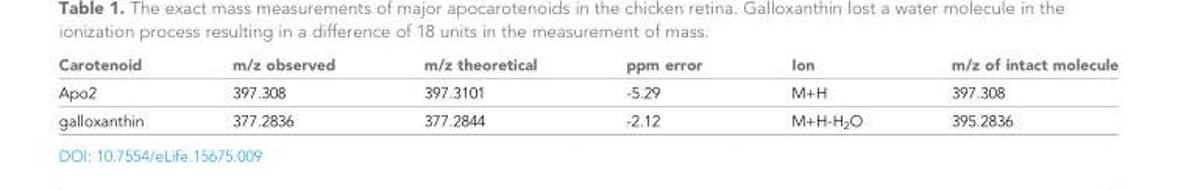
<table><thead><tr><td>Carotenoid</td><td>m/z observed</td><td>m/z theoretical</td><td>ppm error</td><td>Ion</td><td>m/z of intact molecule</td></tr></thead><tbody><tr><td>Apo2</td><td>397.308</td><td>397.3101</td><td>-5.29</td><td>M+H</td><td>397.308</td></tr><tr><td>galloxanthin</td><td>377.2836</td><td>377.2844</td><td>-2.12</td><td>M+H-H<sub>2</sub>O</td><td>395.2836</td></tr></tbody></table>